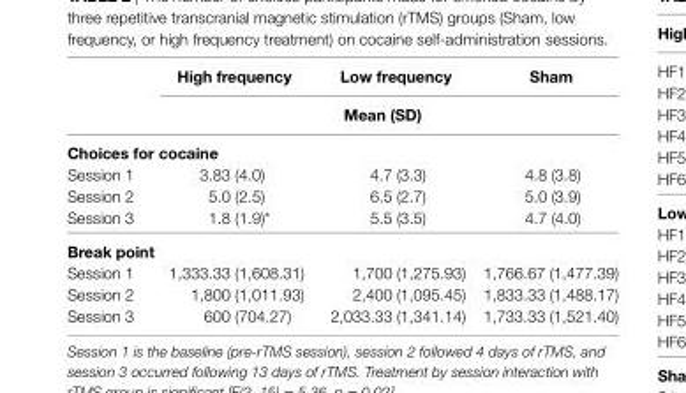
<table><thead><tr><td rowspan="2"></td><td>high frequency</td><td>low frequency</td><td>sham</td></tr><tr><td colspan="3">Mean (sD)</td></tr></thead><tbody><tr><td colspan="4">choices for cocaine</td></tr><tr><td>Session 1</td><td>3.83 (4.0)</td><td>4.7 (3.3)</td><td>4.8 (3.8)</td></tr><tr><td>Session 2</td><td>5.0 (2.5)</td><td>6.5 (2.7)</td><td>5.0 (3.9)</td></tr><tr><td>Session 3</td><td>1.8 (1.9)*</td><td>5.5 (3.5)</td><td>4.7 (4.0)</td></tr><tr><td colspan="4">Break point</td></tr><tr><td>Session 1</td><td>1,333.33 (1,608.31)</td><td>1,700 (1,275.93)</td><td>1,766.67 (1,477.39)</td></tr><tr><td>Session 2</td><td>1,800 (1,011.93)</td><td>2,400 (1,095.45)</td><td>1,833.33 (1,488.17)</td></tr><tr><td>Session 3</td><td>600 (704.27)</td><td>2,033.33 (1,341.14)</td><td>1,733.33 (1,521.40)</td></tr></tbody></table>